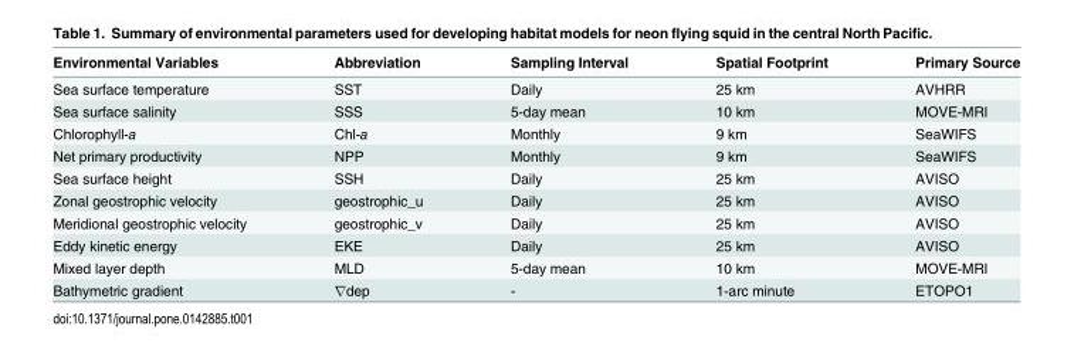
<table><thead><tr><td>Environmental Variables</td><td>Abbreviation</td><td>Sampling Interval</td><td>Spatial Footprint</td><td>Primary Source</td></tr></thead><tbody><tr><td>Sea surface temperature</td><td>SST</td><td>Daily</td><td>25 km</td><td>AVHRR</td></tr><tr><td>Sea surface salinity</td><td>SSS</td><td>5-day mean</td><td>10 km</td><td>MOVE-MRI</td></tr><tr><td>Chlorophyll-a</td><td>Chl-a</td><td>Monthly</td><td>9 km</td><td>SeaWIFS</td></tr><tr><td>Net primary productivity</td><td>NPP</td><td>Monthly</td><td>9 km</td><td>SeaWIFS</td></tr><tr><td>Sea surface height</td><td>SSH</td><td>Daily</td><td>25 km</td><td>AVISO</td></tr><tr><td>Zonal geostrophic velocity</td><td>geostrophic_u</td><td>Daily</td><td>25 km</td><td>AVISO</td></tr><tr><td>Meridional geostrophic velocity</td><td>geostrophic_v</td><td>Daily</td><td>25 km</td><td>AVISO</td></tr><tr><td>Eddy kinetic energy</td><td>EKE</td><td>Daily</td><td>25 km</td><td>AVISO</td></tr><tr><td>Mixed layer depth</td><td>MLD</td><td>5-day mean</td><td>10 km</td><td>MOVE-MRI</td></tr><tr><td>Bathymetric gradient</td><td>∇dep</td><td>-</td><td>1-arc minute</td><td>ETOPO1</td></tr></tbody></table>